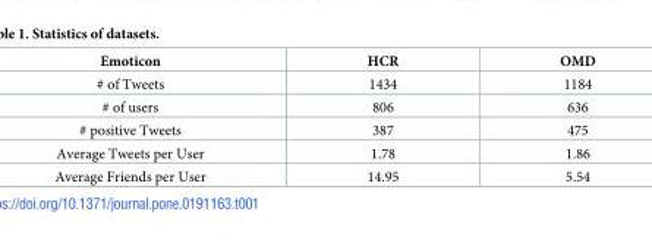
<table><thead><tr><td>Emoticon</td><td>HCR</td><td>OMD</td></tr></thead><tbody><tr><td># of Tweets</td><td>1434</td><td>1184</td></tr><tr><td># of users</td><td>806</td><td>636</td></tr><tr><td># positive Tweets</td><td>387</td><td>475</td></tr><tr><td>Average Tweets per User</td><td>1.78</td><td>1.86</td></tr><tr><td>Average Friends per User</td><td>14.95</td><td>5.54</td></tr></tbody></table>